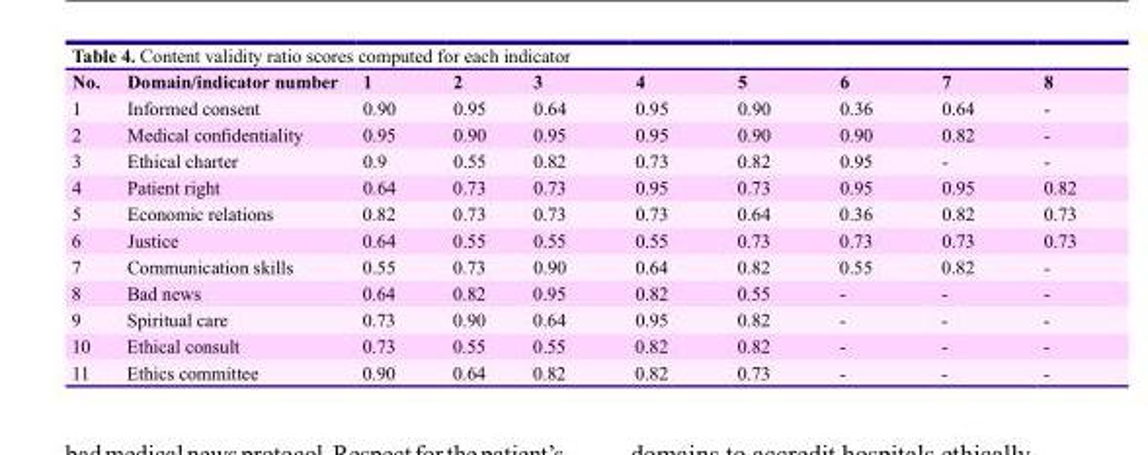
<table><thead><tr><td>No.</td><td>Domain/indicator number</td><td>1</td><td>2</td><td>3</td><td>4</td><td>5</td><td>6</td><td>7</td><td>8</td></tr></thead><tbody><tr><td>1</td><td>Informed consent</td><td>0.90</td><td>0.95</td><td>0.64</td><td>0.95</td><td>0.90</td><td>0.36</td><td>0.64</td><td>-</td></tr><tr><td>2</td><td>Medical confidentiality</td><td>0.95</td><td>0.90</td><td>0.95</td><td>0.95</td><td>0.90</td><td>0.90</td><td>0.82</td><td>-</td></tr><tr><td>3</td><td>Ethical charter</td><td>0.9</td><td>0.55</td><td>0.82</td><td>0.73</td><td>0.82</td><td>0.95</td><td>-</td><td>-</td></tr><tr><td>4</td><td>Patient right</td><td>0.64</td><td>0.73</td><td>0.73</td><td>0.95</td><td>0.73</td><td>0.95</td><td>0.95</td><td>0.82</td></tr><tr><td>5</td><td>Economic relations</td><td>0.82</td><td>0.73</td><td>0.73</td><td>0.73</td><td>0.64</td><td>0.36</td><td>0.82</td><td>0.73</td></tr><tr><td>6</td><td>Justice</td><td>0.64</td><td>0.55</td><td>0.55</td><td>0.55</td><td>0.73</td><td>0.73</td><td>0.73</td><td>0.73</td></tr><tr><td>7</td><td>Communication skills</td><td>0.55</td><td>0.73</td><td>0.90</td><td>0.64</td><td>0.82</td><td>0.55</td><td>0.82</td><td>-</td></tr><tr><td>8</td><td>Bad news</td><td>0.64</td><td>0.82</td><td>0.95</td><td>0.82</td><td>0.55</td><td>-</td><td>-</td><td>-</td></tr><tr><td>9</td><td>Spiritual care</td><td>0.73</td><td>0.90</td><td>0.64</td><td>0.95</td><td>0.82</td><td>-</td><td>-</td><td>-</td></tr><tr><td>10</td><td>Ethical consult</td><td>0.73</td><td>0.55</td><td>0.55</td><td>0.82</td><td>0.82</td><td>-</td><td>-</td><td>-</td></tr><tr><td>11</td><td>Ethics committee</td><td>0.90</td><td>0.64</td><td>0.82</td><td>0.82</td><td>0.73</td><td>-</td><td>-</td><td>-</td></tr></tbody></table>